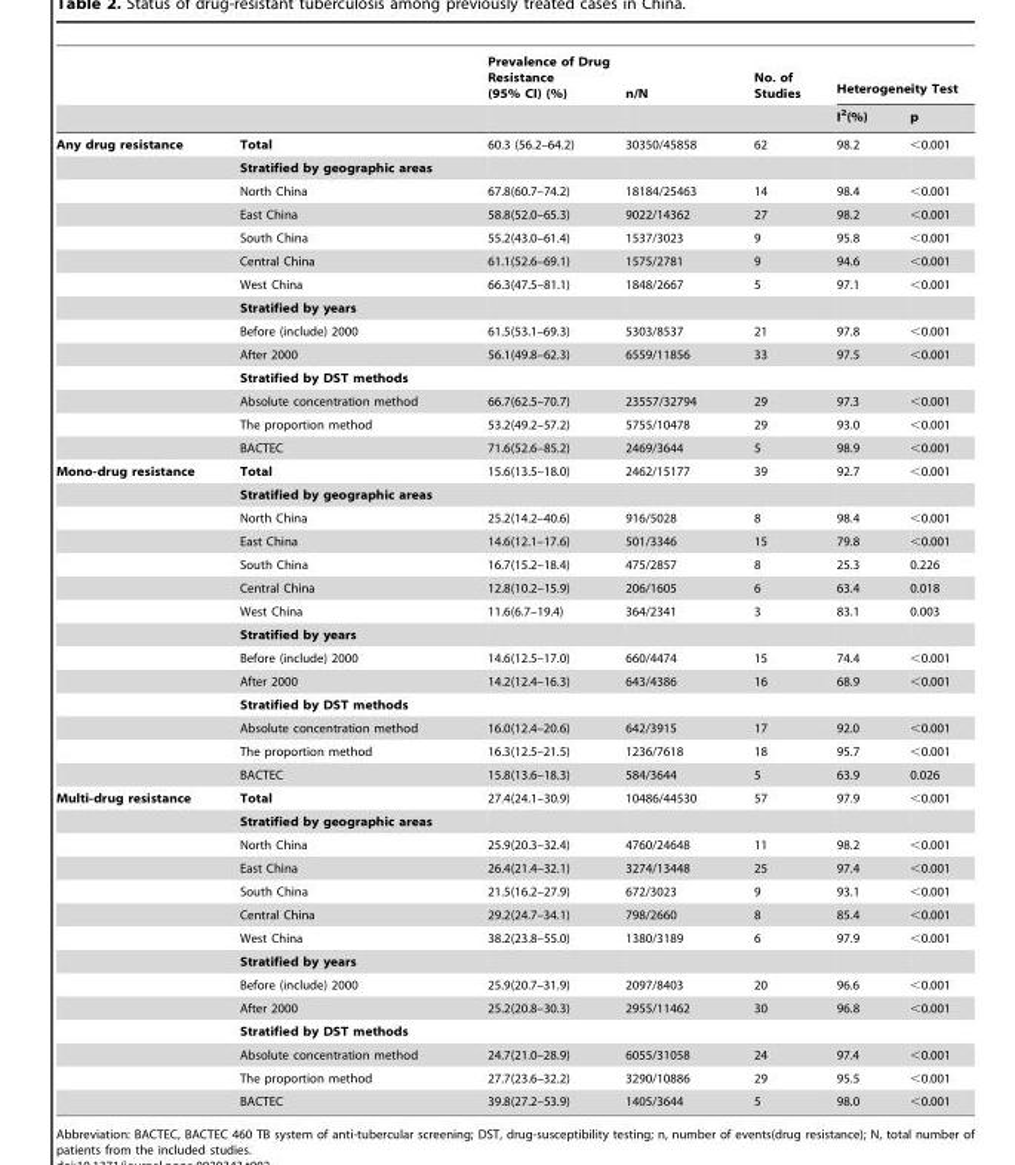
<table><thead><tr><td rowspan="2"></td><td rowspan="2"></td><td rowspan="2">Prevalence of Drug Resistance (95% CI) (%)</td><td rowspan="2">n/N</td><td rowspan="2">No. of Studies</td><td colspan="2">Heterogeneity Test</td></tr><tr><td>I<sup>2</sup>(%)</td><td>p</td></tr></thead><tbody><tr><td rowspan="14">Any drug resistance</td><td>Total</td><td>60.3 (56.2–64.2)</td><td>30350/45858</td><td>62</td><td>98.2</td><td>&lt;0.001</td></tr><tr><td>Stratified by geographic areas</td><td></td><td></td><td></td><td></td><td></td></tr><tr><td>North China</td><td>67.8(60.7–74.2)</td><td>18184/25463</td><td>14</td><td>98.4</td><td>&lt;0.001</td></tr><tr><td>East China</td><td>58.8(52.0–65.3)</td><td>9022/14362</td><td>27</td><td>98.2</td><td>&lt;0.001</td></tr><tr><td>South China</td><td>55.2(43.0–61.4)</td><td>1537/3023</td><td>9</td><td>95.8</td><td>&lt;0.001</td></tr><tr><td>Central China</td><td>61.1(52.6–69.1)</td><td>1575/2781</td><td>9</td><td>94.6</td><td>&lt;0.001</td></tr><tr><td>West China</td><td>66.3(47.5–81.1)</td><td>1848/2667</td><td>5</td><td>97.1</td><td>&lt;0.001</td></tr><tr><td>Stratified by years</td><td></td><td></td><td></td><td></td><td></td></tr><tr><td>Before (include) 2000</td><td>61.5(53.1–69.3)</td><td>5303/8537</td><td>21</td><td>97.8</td><td>&lt;0.001</td></tr><tr><td>After 2000</td><td>56.1(49.8–62.3)</td><td>6559/11856</td><td>33</td><td>97.5</td><td>&lt;0.001</td></tr><tr><td>Stratified by DST methods</td><td></td><td></td><td></td><td></td><td></td></tr><tr><td>Absolute concentration method</td><td>66.7(62.5–70.7)</td><td>23557/32794</td><td>29</td><td>97.3</td><td>&lt;0.001</td></tr><tr><td>The proportion method</td><td>53.2(49.2–57.2)</td><td>5755/10478</td><td>29</td><td>93.0</td><td>&lt;0.001</td></tr><tr><td>BACTEC</td><td>71.6(52.6–85.2)</td><td>2469/3644</td><td>5</td><td>98.9</td><td>&lt;0.001</td></tr><tr><td rowspan="14">Mono-drug resistance</td><td>Total</td><td>15.6(13.5–18.0)</td><td>2462/15177</td><td>39</td><td>92.7</td><td>&lt;0.001</td></tr><tr><td>Stratified by geographic areas</td><td></td><td></td><td></td><td></td><td></td></tr><tr><td>North China</td><td>25.2(14.2–40.6)</td><td>916/5028</td><td>8</td><td>98.4</td><td>&lt;0.001</td></tr><tr><td>East China</td><td>14.6(12.1–17.6)</td><td>501/3346</td><td>15</td><td>79.8</td><td>&lt;0.001</td></tr><tr><td>South China</td><td>16.7(15.2–18.4)</td><td>475/2857</td><td>8</td><td>25.3</td><td>0.226</td></tr><tr><td>Central China</td><td>12.8(10.2–15.9)</td><td>206/1605</td><td>6</td><td>63.4</td><td>0.018</td></tr><tr><td>West China</td><td>11.6(6.7–19.4)</td><td>364/2341</td><td>3</td><td>83.1</td><td>0.003</td></tr><tr><td>Stratified by years</td><td></td><td></td><td></td><td></td><td></td></tr><tr><td>Before (include) 2000</td><td>14.6(12.5–17.0)</td><td>660/4474</td><td>15</td><td>74.4</td><td>&lt;0.001</td></tr><tr><td>After 2000</td><td>14.2(12.4–16.3)</td><td>643/4386</td><td>16</td><td>68.9</td><td>&lt;0.001</td></tr><tr><td>Stratified by DST methods</td><td></td><td></td><td></td><td></td><td></td></tr><tr><td>Absolute concentration method</td><td>16.0(12.4–20.6)</td><td>642/3915</td><td>17</td><td>92.0</td><td>&lt;0.001</td></tr><tr><td>The proportion method</td><td>16.3(12.5–21.5)</td><td>1236/7618</td><td>18</td><td>95.7</td><td>&lt;0.001</td></tr><tr><td>BACTEC</td><td>15.8(13.6–18.3)</td><td>584/3644</td><td>5</td><td>63.9</td><td>0.026</td></tr><tr><td rowspan="14">Multi-drug resistance</td><td>Total</td><td>27.4(24.1–30.9)</td><td>10486/44530</td><td>57</td><td>97.9</td><td>&lt;0.001</td></tr><tr><td>Stratified by geographic areas</td><td></td><td></td><td></td><td></td><td></td></tr><tr><td>North China</td><td>25.9(20.3–32.4)</td><td>4760/24648</td><td>11</td><td>98.2</td><td>&lt;0.001</td></tr><tr><td>East China</td><td>26.4(21.4–32.1)</td><td>3274/13448</td><td>25</td><td>97.4</td><td>&lt;0.001</td></tr><tr><td>South China</td><td>21.5(16.2–27.9)</td><td>672/3023</td><td>9</td><td>93.1</td><td>&lt;0.001</td></tr><tr><td>Central China</td><td>29.2(24.7–34.1)</td><td>798/2660</td><td>8</td><td>85.4</td><td>&lt;0.001</td></tr><tr><td>West China</td><td>38.2(23.8–55.0)</td><td>1380/3189</td><td>6</td><td>97.9</td><td>&lt;0.001</td></tr><tr><td>Stratified by years</td><td></td><td></td><td></td><td></td><td></td></tr><tr><td>Before (include) 2000</td><td>25.9(20.7–31.9)</td><td>2097/8403</td><td>20</td><td>96.6</td><td>&lt;0.001</td></tr><tr><td>After 2000</td><td>25.2(20.8–30.3)</td><td>2955/11462</td><td>30</td><td>96.8</td><td>&lt;0.001</td></tr><tr><td>Stratified by DST methods</td><td></td><td></td><td></td><td></td><td></td></tr><tr><td>Absolute concentration method</td><td>24.7(21.0–28.9)</td><td>6055/31058</td><td>24</td><td>97.4</td><td>&lt;0.001</td></tr><tr><td>The proportion method</td><td>27.7(23.6–32.2)</td><td>3290/10886</td><td>29</td><td>95.5</td><td>&lt;0.001</td></tr><tr><td>BACTEC</td><td>39.8(27.2–53.9)</td><td>1405/3644</td><td>5</td><td>98.0</td><td>&lt;0.001</td></tr></tbody></table>